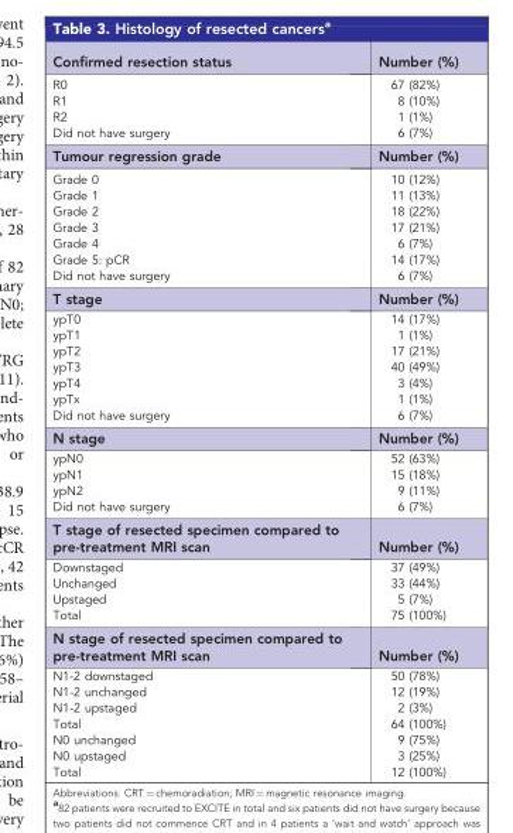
<table><tbody><tr><td>Confirmed resection status</td><td>Number (%)</td></tr><tr><td>R0</td><td>67 (82%)</td></tr><tr><td>R1</td><td>8 (10%)</td></tr><tr><td>R2</td><td>1 (1%)</td></tr><tr><td>Did not have surgery</td><td>6 (7%)</td></tr><tr><td>Tumour regression grade</td><td>Number (%)</td></tr><tr><td>Grade 0</td><td>10 (12%)</td></tr><tr><td>Grade 1</td><td>11 (13%)</td></tr><tr><td>Grade 2</td><td>18 (22%)</td></tr><tr><td>Grade 3</td><td>17 (21%)</td></tr><tr><td>Grade 4</td><td>6 (7%)</td></tr><tr><td>Grade 5: pCR</td><td>14 (17%)</td></tr><tr><td>Did not have surgery</td><td>6 (7%)</td></tr><tr><td>T stage</td><td>Number (%)</td></tr><tr><td>ypT0</td><td>14 (17%)</td></tr><tr><td>ypT1</td><td>1 (1%)</td></tr><tr><td>ypT2</td><td>17 (21%)</td></tr><tr><td>ypT3</td><td>40 (49%)</td></tr><tr><td>ypT4</td><td>3 (4%)</td></tr><tr><td>ypTx</td><td>1 (1%)</td></tr><tr><td>Did not have surgery</td><td>6 (7%)</td></tr><tr><td>N stage</td><td>Number (%)</td></tr><tr><td>ypN0</td><td>52 (63%)</td></tr><tr><td>ypN1</td><td>15 (18%)</td></tr><tr><td>ypN2</td><td>9 (11%)</td></tr><tr><td>Did not have surgery</td><td>6 (7%)</td></tr><tr><td>T stage of resected specimen compared to pre-treatment MRI scan</td><td>Number (%)</td></tr><tr><td>Downstaged</td><td>37 (49%)</td></tr><tr><td>Unchanged</td><td>33 (44%)</td></tr><tr><td>Upstaged</td><td>5 (7%)</td></tr><tr><td>Total</td><td>75 (100%)</td></tr><tr><td>N stage of resected specimen compared to pre-treatment MRI scan</td><td>Number (%)</td></tr><tr><td>N1-2 downstaged</td><td>50 (78%)</td></tr><tr><td>N1-2 unchanged</td><td>12 (19%)</td></tr><tr><td>N1-2 upstaged</td><td>2 (3%)</td></tr><tr><td>Total</td><td>64 (100%)</td></tr><tr><td>N0 unchanged</td><td>9 (75%)</td></tr><tr><td>N0 upstaged</td><td>3 (25%)</td></tr><tr><td>Total</td><td>12 (100%)</td></tr></tbody></table>